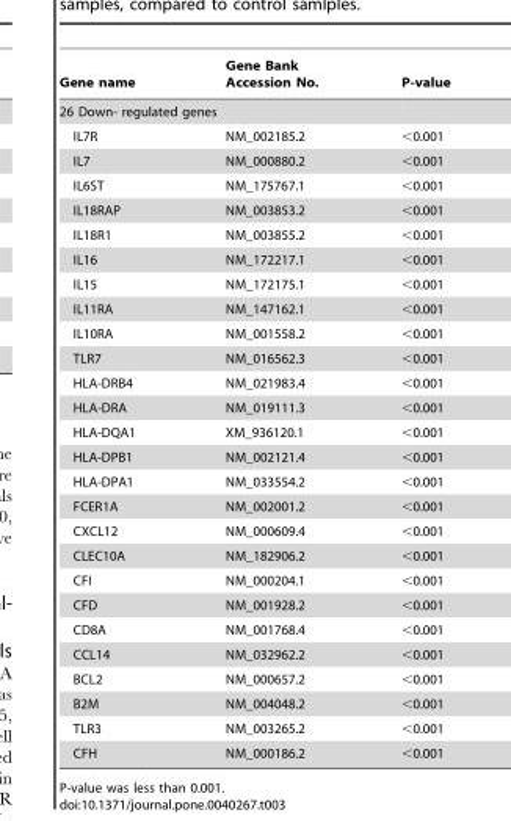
<table><thead><tr><td>Gene name</td><td>Gene Bank Accession No.</td><td>P-value</td></tr></thead><tbody><tr><td colspan="3">26 Down- regulated genes</td></tr><tr><td>IL7R</td><td>NM_002185.2</td><td>&lt;0.001</td></tr><tr><td>IL7</td><td>NM_000880.2</td><td>&lt;0.001</td></tr><tr><td>IL6ST</td><td>NM_175767.1</td><td>&lt;0.001</td></tr><tr><td>IL18RAP</td><td>NM_003853.2</td><td>&lt;0.001</td></tr><tr><td>IL18R1</td><td>NM_003855.2</td><td>&lt;0.001</td></tr><tr><td>IL16</td><td>NM_172217.1</td><td>&lt;0.001</td></tr><tr><td>IL15</td><td>NM_172175.1</td><td>&lt;0.001</td></tr><tr><td>IL11RA</td><td>NM_147162.1</td><td>&lt;0.001</td></tr><tr><td>IL10RA</td><td>NM_001558.2</td><td>&lt;0.001</td></tr><tr><td>TLR7</td><td>NM_016562.3</td><td>&lt;0.001</td></tr><tr><td>HLA-DRB4</td><td>NM_021983.4</td><td>&lt;0.001</td></tr><tr><td>HLA-DRA</td><td>NM_019111.3</td><td>&lt;0.001</td></tr><tr><td>HLA-DQA1</td><td>XM_936120.1</td><td>&lt;0.001</td></tr><tr><td>HLA-DPB1</td><td>NM_002121.4</td><td>&lt;0.001</td></tr><tr><td>HLA-DPA1</td><td>NM_033554.2</td><td>&lt;0.001</td></tr><tr><td>FCER1A</td><td>NM_002001.2</td><td>&lt;0.001</td></tr><tr><td>CXCL12</td><td>NM_000609.4</td><td>&lt;0.001</td></tr><tr><td>CLEC10A</td><td>NM_182906.2</td><td>&lt;0.001</td></tr><tr><td>CFI</td><td>NM_000204.1</td><td>&lt;0.001</td></tr><tr><td>CFD</td><td>NM_001928.2</td><td>&lt;0.001</td></tr><tr><td>CD8A</td><td>NM_001768.4</td><td>&lt;0.001</td></tr><tr><td>CCL14</td><td>NM_032962.2</td><td>&lt;0.001</td></tr><tr><td>BCL2</td><td>NM_000657.2</td><td>&lt;0.001</td></tr><tr><td>B2M</td><td>NM_004048.2</td><td>&lt;0.001</td></tr><tr><td>TLR3</td><td>NM_003265.2</td><td>&lt;0.001</td></tr><tr><td>CFH</td><td>NM_000186.2</td><td>&lt;0.001</td></tr></tbody></table>